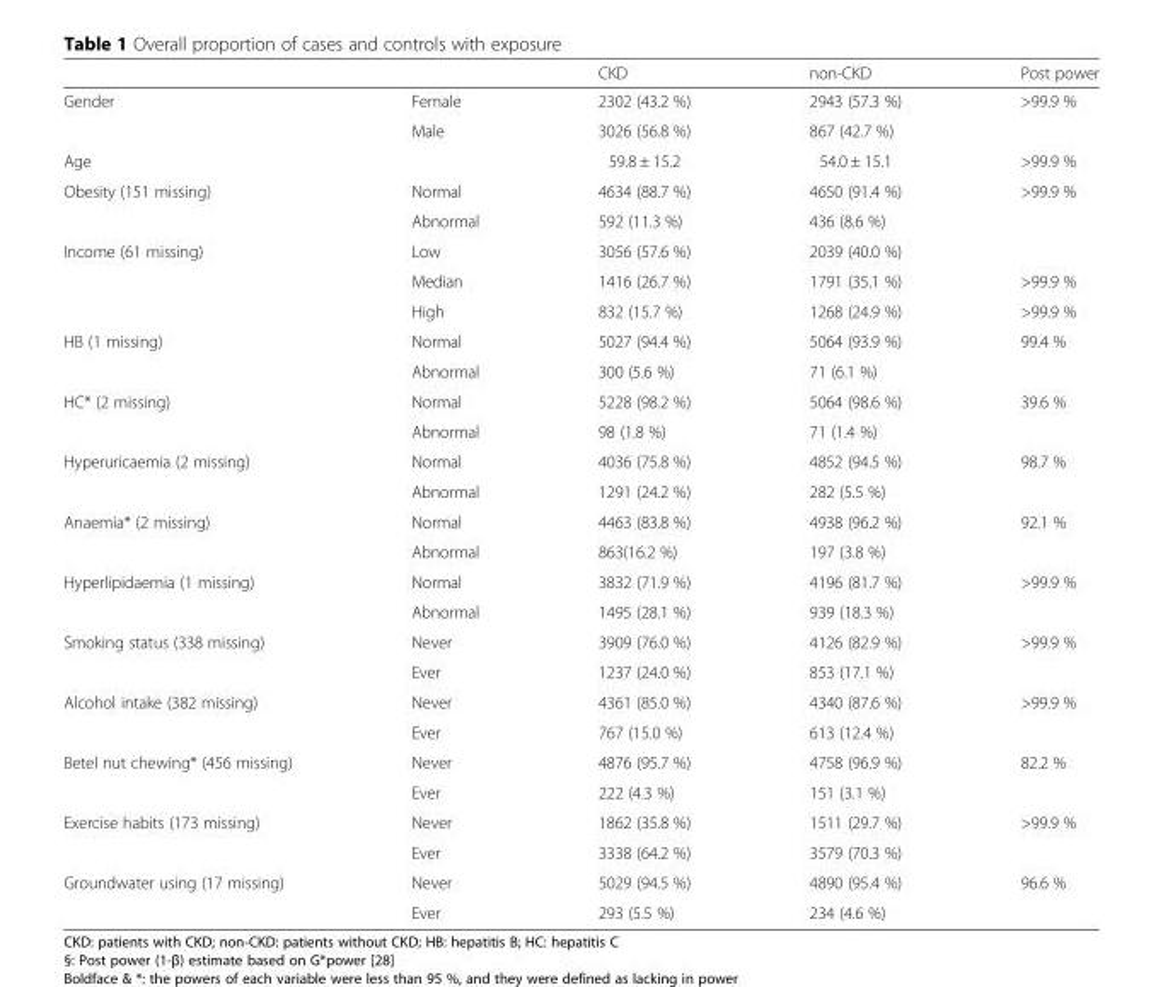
<table><thead><tr><td></td><td></td><td>CKD</td><td>non-CKD</td><td>Post power</td></tr></thead><tbody><tr><td rowspan="2">Gender</td><td>Female</td><td>2302 (43.2 %)</td><td>2943 (57.3 %)</td><td>&gt;99.9 %</td></tr><tr><td>Male</td><td>3026 (56.8 %)</td><td>867 (42.7 %)</td><td></td></tr><tr><td>Age</td><td></td><td>59.8 ± 15.2</td><td>54.0 ± 15.1</td><td>&gt;99.9 %</td></tr><tr><td rowspan="2">Obesity (151 missing)</td><td>Normal</td><td>4634 (88.7 %)</td><td>4650 (91.4 %)</td><td>&gt;99.9 %</td></tr><tr><td>Abnormal</td><td>592 (11.3 %)</td><td>436 (8.6 %)</td><td></td></tr><tr><td rowspan="3">Income (61 missing)</td><td>Low</td><td>3056 (57.6 %)</td><td>2039 (40.0 %)</td><td></td></tr><tr><td>Median</td><td>1416 (26.7 %)</td><td>1791 (35.1 %)</td><td>&gt;99.9 %</td></tr><tr><td>High</td><td>832 (15.7 %)</td><td>1268 (24.9 %)</td><td>&gt;99.9 %</td></tr><tr><td rowspan="2">HB (1 missing)</td><td>Normal</td><td>5027 (94.4 %)</td><td>5064 (93.9 %)</td><td>99.4 %</td></tr><tr><td>Abnormal</td><td>300 (5.6 %)</td><td>71 (6.1 %)</td><td></td></tr><tr><td rowspan="2">HC* (2 missing)</td><td>Normal</td><td>5228 (98.2 %)</td><td>5064 (98.6 %)</td><td>39.6 %</td></tr><tr><td>Abnormal</td><td>98 (1.8 %)</td><td>71 (1.4 %)</td><td></td></tr><tr><td rowspan="2">Hyperuricaemia (2 missing)</td><td>Normal</td><td>4036 (75.8 %)</td><td>4852 (94.5 %)</td><td>98.7 %</td></tr><tr><td>Abnormal</td><td>1291 (24.2 %)</td><td>282 (5.5 %)</td><td></td></tr><tr><td rowspan="2">Anaemia* (2 missing)</td><td>Normal</td><td>4463 (83.8 %)</td><td>4938 (96.2 %)</td><td>92.1 %</td></tr><tr><td>Abnormal</td><td>863(16.2 %)</td><td>197 (3.8 %)</td><td></td></tr><tr><td rowspan="2">Hyperlipidaemia (1 missing)</td><td>Normal</td><td>3832 (71.9 %)</td><td>4196 (81.7 %)</td><td>&gt;99.9 %</td></tr><tr><td>Abnormal</td><td>1495 (28.1 %)</td><td>939 (18.3 %)</td><td></td></tr><tr><td rowspan="2">Smoking status (338 missing)</td><td>Never</td><td>3909 (76.0 %)</td><td>4126 (82.9 %)</td><td>&gt;99.9 %</td></tr><tr><td>Ever</td><td>1237 (24.0 %)</td><td>853 (17.1 %)</td><td></td></tr><tr><td rowspan="2">Alcohol intake (382 missing)</td><td>Never</td><td>4361 (85.0 %)</td><td>4340 (87.6 %)</td><td>&gt;99.9 %</td></tr><tr><td>Ever</td><td>767 (15.0 %)</td><td>613 (12.4 %)</td><td></td></tr><tr><td rowspan="2">Betel nut chewing* (456 missing)</td><td>Never</td><td>4876 (95.7 %)</td><td>4758 (96.9 %)</td><td>82.2 %</td></tr><tr><td>Ever</td><td>222 (4.3 %)</td><td>151 (3.1 %)</td><td></td></tr><tr><td rowspan="2">Exercise habits (173 missing)</td><td>Never</td><td>1862 (35.8 %)</td><td>1511 (29.7 %)</td><td>&gt;99.9 %</td></tr><tr><td>Ever</td><td>3338 (64.2 %)</td><td>3579 (70.3 %)</td><td></td></tr><tr><td rowspan="2">Groundwater using (17 missing)</td><td>Never</td><td>5029 (94.5 %)</td><td>4890 (95.4 %)</td><td>96.6 %</td></tr><tr><td>Ever</td><td>293 (5.5 %)</td><td>234 (4.6 %)</td><td></td></tr></tbody></table>